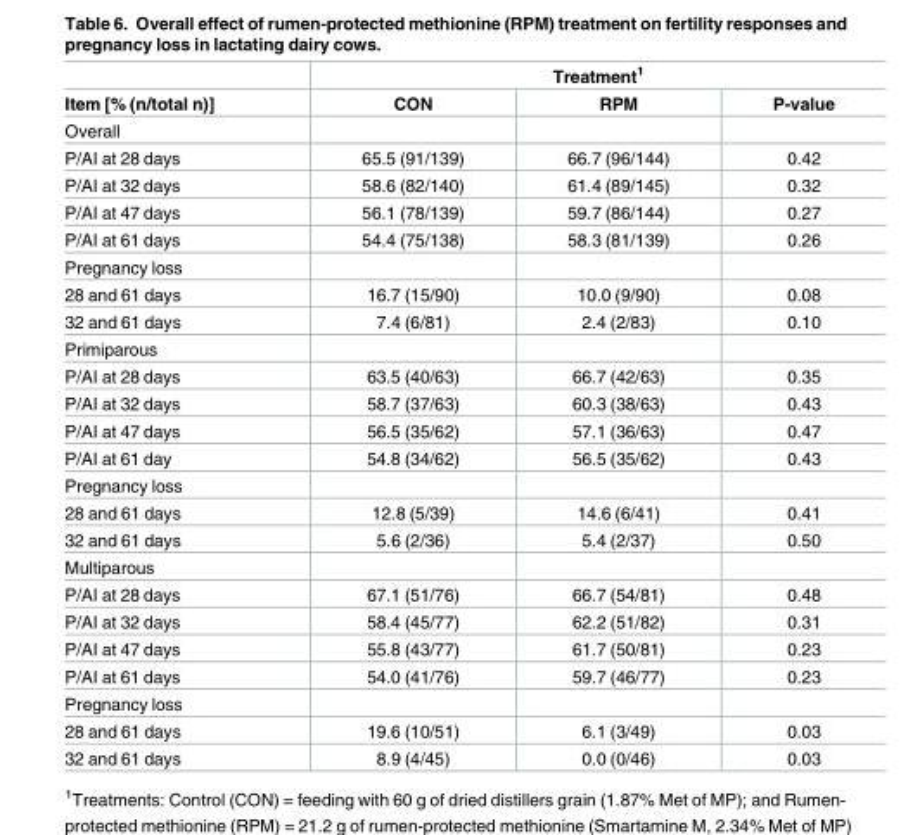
<table><thead><tr><td rowspan="2">Item [% (n/total n)]</td><td colspan="3">Treatment<sup>1</sup></td></tr><tr><td>CON</td><td>RPM</td><td>P-value</td></tr></thead><tbody><tr><td colspan="4">Overall</td></tr><tr><td>P/AI at 28 days</td><td>65.5 (91/139)</td><td>66.7 (96/144)</td><td>0.42</td></tr><tr><td>P/AI at 32 days</td><td>58.6 (82/140)</td><td>61.4 (89/145)</td><td>0.32</td></tr><tr><td>P/AI at 47 days</td><td>56.1 (78/139)</td><td>59.7 (86/144)</td><td>0.27</td></tr><tr><td>P/AI at 61 days</td><td>54.4 (75/138)</td><td>58.3 (81/139)</td><td>0.26</td></tr><tr><td colspan="4">Pregnancy loss</td></tr><tr><td>28 and 61 days</td><td>16.7 (15/90)</td><td>10.0 (9/90)</td><td>0.08</td></tr><tr><td>32 and 61 days</td><td>7.4 (6/81)</td><td>2.4 (2/83)</td><td>0.10</td></tr><tr><td colspan="4">Primiparous</td></tr><tr><td>P/AI at 28 days</td><td>63.5 (40/63)</td><td>66.7 (42/63)</td><td>0.35</td></tr><tr><td>P/AI at 32 days</td><td>58.7 (37/63)</td><td>60.3 (38/63)</td><td>0.43</td></tr><tr><td>P/AI at 47 days</td><td>56.5 (35/62)</td><td>57.1 (36/63)</td><td>0.47</td></tr><tr><td>P/AI at 61 day</td><td>54.8 (34/62)</td><td>56.5 (35/62)</td><td>0.43</td></tr><tr><td colspan="4">Pregnancy loss</td></tr><tr><td>28 and 61 days</td><td>12.8 (5/39)</td><td>14.6 (6/41)</td><td>0.41</td></tr><tr><td>32 and 61 days</td><td>5.6 (2/36)</td><td>5.4 (2/37)</td><td>0.50</td></tr><tr><td colspan="4">Multiparous</td></tr><tr><td>P/AI at 28 days</td><td>67.1 (51/76)</td><td>66.7 (54/81)</td><td>0.48</td></tr><tr><td>P/AI at 32 days</td><td>58.4 (45/77)</td><td>62.2 (51/82)</td><td>0.31</td></tr><tr><td>P/AI at 47 days</td><td>55.8 (43/77)</td><td>61.7 (50/81)</td><td>0.23</td></tr><tr><td>P/AI at 61 days</td><td>54.0 (41/76)</td><td>59.7 (46/77)</td><td>0.23</td></tr><tr><td colspan="4">Pregnancy loss</td></tr><tr><td>28 and 61 days</td><td>19.6 (10/51)</td><td>6.1 (3/49)</td><td>0.03</td></tr><tr><td>32 and 61 days</td><td>8.9 (4/45)</td><td>0.0 (0/46)</td><td>0.03</td></tr></tbody></table>